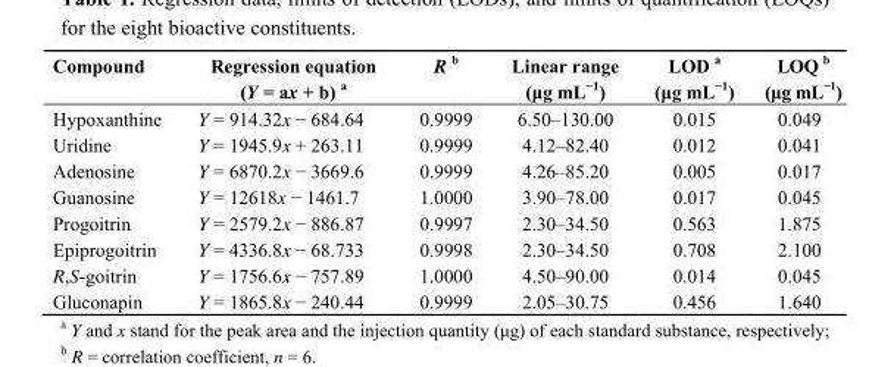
<table><thead><tr><td>Compound</td><td>Regression equation (Y = ax + b) a</td><td>R b</td><td>Linear range (μg mL<sup>−1</sup>)</td><td>LOD a (μg mL<sup>−1</sup>)</td><td>LOQ b (μg mL<sup>−1</sup>)</td></tr></thead><tbody><tr><td>Hypoxanthine</td><td>Y = 914.32x − 684.64</td><td>0.9999</td><td>6.50–130.00</td><td>0.015</td><td>0.049</td></tr><tr><td>Uridine</td><td>Y = 1945.9x + 263.11</td><td>0.9999</td><td>4.12–82.40</td><td>0.012</td><td>0.041</td></tr><tr><td>Adenosine</td><td>Y = 6870.2x − 3669.6</td><td>0.9999</td><td>4.26–85.20</td><td>0.005</td><td>0.017</td></tr><tr><td>Guanosine</td><td>Y = 12618x − 1461.7</td><td>1.0000</td><td>3.90–78.00</td><td>0.017</td><td>0.045</td></tr><tr><td>Progoitrin</td><td>Y = 2579.2x − 886.87</td><td>0.9997</td><td>2.30–34.50</td><td>0.563</td><td>1.875</td></tr><tr><td>Epiprogoitrin</td><td>Y = 4336.8x − 68.733</td><td>0.9998</td><td>2.30–34.50</td><td>0.708</td><td>2.100</td></tr><tr><td>R,S-goitrin</td><td>Y = 1756.6x − 757.89</td><td>1.0000</td><td>4.50–90.00</td><td>0.014</td><td>0.045</td></tr><tr><td>Gluconapin</td><td>Y = 1865.8x − 240.44</td><td>0.9999</td><td>2.05–30.75</td><td>0.456</td><td>1.640</td></tr></tbody></table>